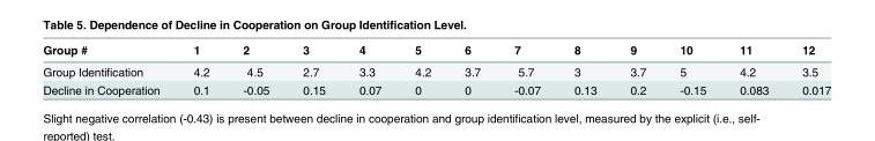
<table><thead><tr><td>Group #</td><td>1</td><td>2</td><td>3</td><td>4</td><td>5</td><td>6</td><td>7</td><td>8</td><td>9</td><td>10</td><td>11</td><td>12</td></tr></thead><tbody><tr><td>Group Identification</td><td>4.2</td><td>4.5</td><td>2.7</td><td>3.3</td><td>4.2</td><td>3.7</td><td>5.7</td><td>3</td><td>3.7</td><td>5</td><td>4.2</td><td>3.5</td></tr><tr><td>Decline in Cooperation</td><td>0.1</td><td>-0.05</td><td>0.15</td><td>0.07</td><td>0</td><td>0</td><td>-0.07</td><td>0.13</td><td>0.2</td><td>-0.15</td><td>0.083</td><td>0.017</td></tr></tbody></table>